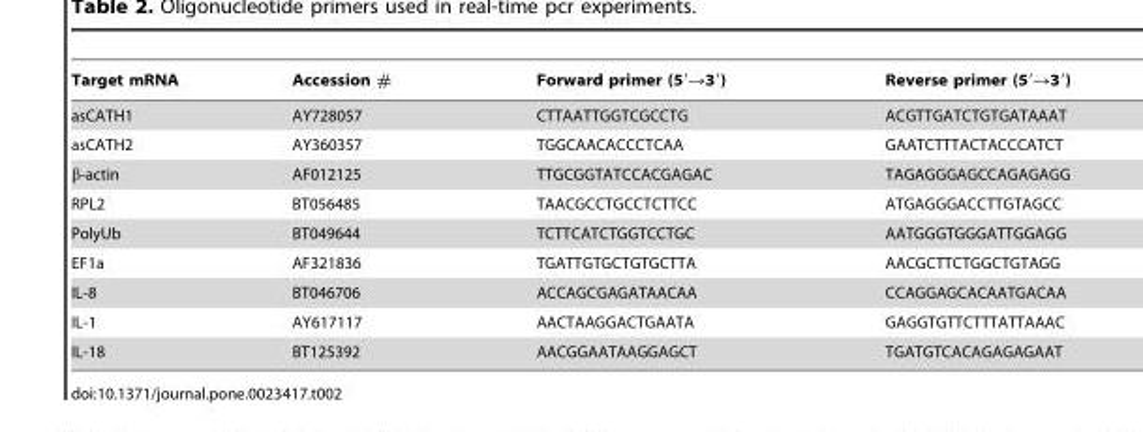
<table><thead><tr><td>Target mRNA</td><td>Accession #</td><td>Forward primer (5′→3′)</td><td>Reverse primer (5′→3′)</td></tr></thead><tbody><tr><td>asCATH1</td><td>AY728057</td><td>CTTAATTGGTCGCCTG</td><td>ACGTTGATCTGTGATAAAT</td></tr><tr><td>asCATH2</td><td>AY360357</td><td>TGGCAACACCCTCAA</td><td>GAATCTTTACTACCCATCT</td></tr><tr><td>β-actin</td><td>AF012125</td><td>TTGCGGTATCCACGAGAC</td><td>TAGAGGGAGCCAGAGAGG</td></tr><tr><td>RPL2</td><td>BT056485</td><td>TAACGCCTGCCTCTTCC</td><td>ATGAGGGACCTTGTAGCC</td></tr><tr><td>PolyUb</td><td>BT049644</td><td>TCTTCATCTGGTCCTGC</td><td>AATGGGTGGGATTGGAGG</td></tr><tr><td>EF1a</td><td>AF321836</td><td>TGATTGTGCTGTGCTTA</td><td>AACGCTTCTGGCTGTAGG</td></tr><tr><td>IL-8</td><td>BT046706</td><td>ACCAGCGAGATAACAA</td><td>CCAGGAGCACAATGACAA</td></tr><tr><td>IL-1</td><td>AY617117</td><td>AACTAAGGACTGAATA</td><td>GAGGTGTTCTTTATTAAAC</td></tr><tr><td>IL-18</td><td>BT125392</td><td>AACGGAATAAGGAGCT</td><td>TGATGTCACAGAGAGAAT</td></tr></tbody></table>